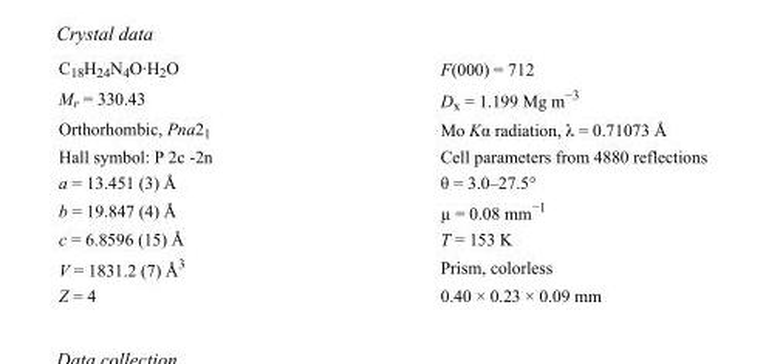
<table><tbody><tr><td>C<sub>18</sub>H<sub>24</sub>N<sub>4</sub>O·H<sub>2</sub>O</td><td>F(000) = 712</td></tr><tr><td>M<sub>r</sub> = 330.43</td><td>D<sub>x</sub> = 1.199 Mg m<sup>−3</sup></td></tr><tr><td>Orthorhombic, Pna2<sub>1</sub></td><td>Mo Kα radiation, λ = 0.71073 Å</td></tr><tr><td>Hall symbol: P 2c -2n</td><td>Cell parameters from 4880 reflections</td></tr><tr><td>a = 13.451 (3) Å</td><td>θ = 3.0–27.5°</td></tr><tr><td>b = 19.847 (4) Å</td><td>µ = 0.08 mm<sup>−1</sup></td></tr><tr><td>c = 6.8596 (15) Å</td><td>T = 153 K</td></tr><tr><td>V = 1831.2 (7) Å<sup>3</sup></td><td>Prism, colorless</td></tr><tr><td>Z = 4</td><td>0.40 × 0.23 × 0.09 mm</td></tr></tbody></table>